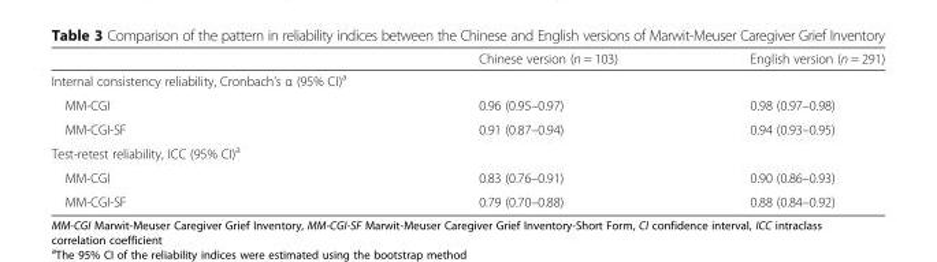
<table><thead><tr><td></td><td>Chinese version (n = 103)</td><td>English version (n = 291)</td></tr></thead><tbody><tr><td colspan="3">Internal consistency reliability, Cronbach’s α (95% CI)<sup>a</sup></td></tr><tr><td>MM-CGI</td><td>0.96 (0.95–0.97)</td><td>0.98 (0.97–0.98)</td></tr><tr><td>MM-CGI-SF</td><td>0.91 (0.87–0.94)</td><td>0.94 (0.93–0.95)</td></tr><tr><td colspan="3">Test-retest reliability, ICC (95% CI)<sup>a</sup></td></tr><tr><td>MM-CGI</td><td>0.83 (0.76–0.91)</td><td>0.90 (0.86–0.93)</td></tr><tr><td>MM-CGI-SF</td><td>0.79 (0.70–0.88)</td><td>0.88 (0.84–0.92)</td></tr></tbody></table>